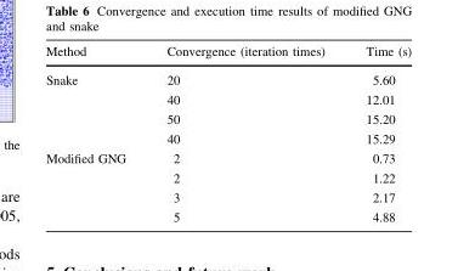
<table><thead><tr><td>Method</td><td>Convergence (iteration times)</td><td>Time (s)</td></tr></thead><tbody><tr><td rowspan="4">Snake</td><td>20</td><td>5.60</td></tr><tr><td>40</td><td>12.01</td></tr><tr><td>50</td><td>15.20</td></tr><tr><td>40</td><td>15.29</td></tr><tr><td rowspan="4">Modified GNG</td><td>2</td><td>0.73</td></tr><tr><td>2</td><td>1.22</td></tr><tr><td>3</td><td>2.17</td></tr><tr><td>5</td><td>4.88</td></tr></tbody></table>